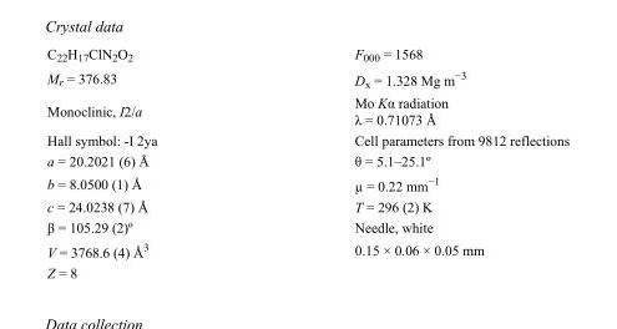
<table><tbody><tr><td>C<sub>22</sub>H<sub>17</sub>ClN<sub>2</sub>O<sub>2</sub></td><td>F000 = 1568</td></tr><tr><td>M<sub>r</sub> = 376.83</td><td>D<sub>x</sub> = 1.328 Mg m<sup>−3</sup></td></tr><tr><td>Monoclinic, I2/a</td><td>Mo Kα radiation λ = 0.71073 Å</td></tr><tr><td>Hall symbol: -I 2ya</td><td>Cell parameters from 9812 reflections</td></tr><tr><td>a = 20.2021 (6) Å</td><td>θ = 5.1–25.1º</td></tr><tr><td>b = 8.0500 (1) Å</td><td>µ = 0.22 mm<sup>−1</sup></td></tr><tr><td>c = 24.0238 (7) Å</td><td>T = 296 (2) K</td></tr><tr><td>β = 105.29 (2)º</td><td>Needle, white</td></tr><tr><td>V = 3768.6 (4) Å<sup>3</sup></td><td>0.15 × 0.06 × 0.05 mm</td></tr><tr><td>Z = 8</td><td></td></tr></tbody></table>